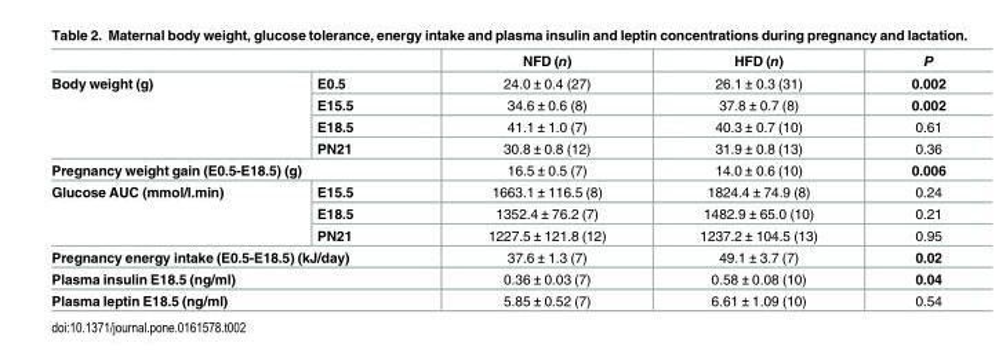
<table><thead><tr><td></td><td></td><td>NFD (n)</td><td>HFD (n)</td><td>P</td></tr></thead><tbody><tr><td rowspan="4">Body weight (g)</td><td>E0.5</td><td>24.0 ± 0.4 (27)</td><td>26.1 ± 0.3 (31)</td><td>0.002</td></tr><tr><td>E15.5</td><td>34.6 ± 0.6 (8)</td><td>37.8 ± 0.7 (8)</td><td>0.002</td></tr><tr><td>E18.5</td><td>41.1 ± 1.0 (7)</td><td>40.3 ± 0.7 (10)</td><td>0.61</td></tr><tr><td>PN21</td><td>30.8 ± 0.8 (12)</td><td>31.9 ± 0.8 (13)</td><td>0.36</td></tr><tr><td colspan="2">Pregnancy weight gain (E0.5-E18.5) (g)</td><td>16.5 ± 0.5 (7)</td><td>14.0 ± 0.6 (10)</td><td>0.006</td></tr><tr><td rowspan="3">Glucose AUC (mmol/l.min)</td><td>E15.5</td><td>1663.1 ± 116.5 (8)</td><td>1824.4 ± 74.9 (8)</td><td>0.24</td></tr><tr><td>E18.5</td><td>1352.4 ± 76.2 (7)</td><td>1482.9 ± 65.0 (10)</td><td>0.21</td></tr><tr><td>PN21</td><td>1227.5 ± 121.8 (12)</td><td>1237.2 ± 104.5 (13)</td><td>0.95</td></tr><tr><td colspan="2">Pregnancy energy intake (E0.5-E18.5) (kJ/day)</td><td>37.6 ± 1.3 (7)</td><td>49.1 ± 3.7 (7)</td><td>0.02</td></tr><tr><td colspan="2">Plasma insulin E18.5 (ng/ml)</td><td>0.36 ± 0.03 (7)</td><td>0.58 ± 0.08 (10)</td><td>0.04</td></tr><tr><td colspan="2">Plasma leptin E18.5 (ng/ml)</td><td>5.85 ± 0.52 (7)</td><td>6.61 ± 1.09 (10)</td><td>0.54</td></tr></tbody></table>